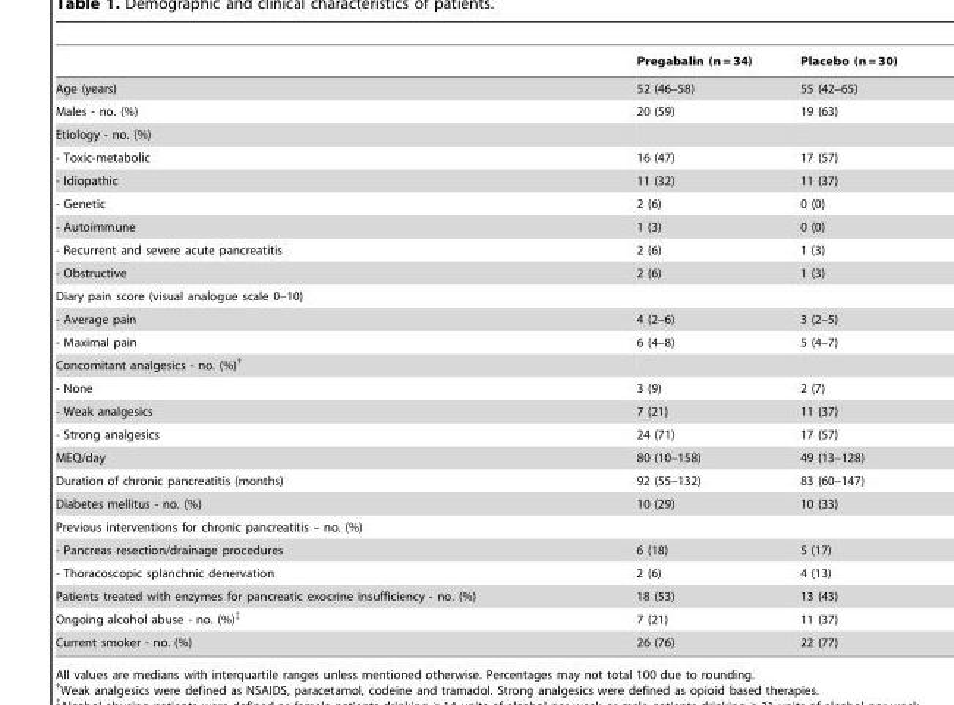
<table><thead><tr><td></td><td>Pregabalin (n = 34)</td><td>Placebo (n = 30)</td></tr></thead><tbody><tr><td>Age (years)</td><td>52 (46–58)</td><td>55 (42–65)</td></tr><tr><td>Males - no. (%)</td><td>20 (59)</td><td>19 (63)</td></tr><tr><td colspan="3">Etiology - no. (%)</td></tr><tr><td>- Toxic-metabolic</td><td>16 (47)</td><td>17 (57)</td></tr><tr><td>- Idiopathic</td><td>11 (32)</td><td>11 (37)</td></tr><tr><td>- Genetic</td><td>2 (6)</td><td>0 (0)</td></tr><tr><td>- Autoimmune</td><td>1 (3)</td><td>0 (0)</td></tr><tr><td>- Recurrent and severe acute pancreatitis</td><td>2 (6)</td><td>1 (3)</td></tr><tr><td>- Obstructive</td><td>2 (6)</td><td>1 (3)</td></tr><tr><td colspan="3">Diary pain score (visual analogue scale 0–10)</td></tr><tr><td>- Average pain</td><td>4 (2–6)</td><td>3 (2–5)</td></tr><tr><td>- Maximal pain</td><td>6 (4–8)</td><td>5 (4–7)</td></tr><tr><td colspan="3">Concomitant analgesics - no. (%)†</td></tr><tr><td>- None</td><td>3 (9)</td><td>2 (7)</td></tr><tr><td>- Weak analgesics</td><td>7 (21)</td><td>11 (37)</td></tr><tr><td>- Strong analgesics</td><td>24 (71)</td><td>17 (57)</td></tr><tr><td>MEQ/day</td><td>80 (10–158)</td><td>49 (13–128)</td></tr><tr><td>Duration of chronic pancreatitis (months)</td><td>92 (55–132)</td><td>83 (60–147)</td></tr><tr><td>Diabetes mellitus - no. (%)</td><td>10 (29)</td><td>10 (33)</td></tr><tr><td colspan="3">Previous interventions for chronic pancreatitis – no. (%)</td></tr><tr><td>- Pancreas resection/drainage procedures</td><td>6 (18)</td><td>5 (17)</td></tr><tr><td>- Thoracoscopic splanchnic denervation</td><td>2 (6)</td><td>4 (13)</td></tr><tr><td>Patients treated with enzymes for pancreatic exocrine insufficiency - no. (%)</td><td>18 (53)</td><td>13 (43)</td></tr><tr><td>Ongoing alcohol abuse - no. (%)‡</td><td>7 (21)</td><td>11 (37)</td></tr><tr><td>Current smoker - no. (%)</td><td>26 (76)</td><td>22 (77)</td></tr></tbody></table>